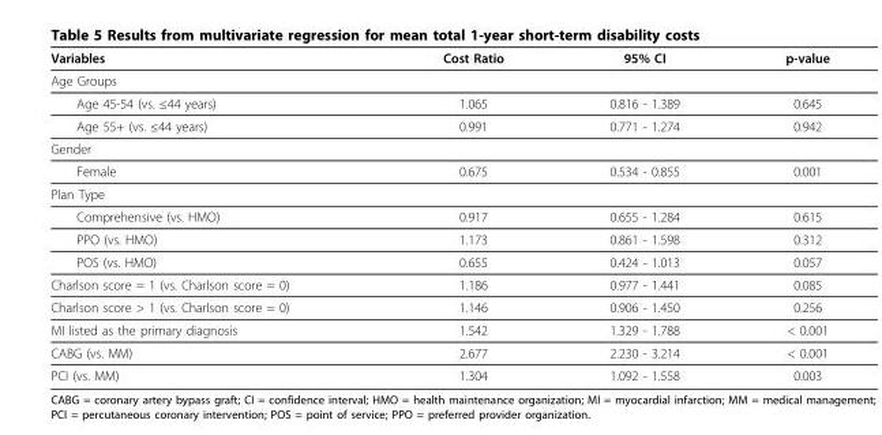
<table><thead><tr><td>Variables</td><td>Cost Ratio</td><td>95% CI</td><td>p-value</td></tr></thead><tbody><tr><td colspan="4">Age Groups</td></tr><tr><td>Age 45-54 (vs. ≤44 years)</td><td>1.065</td><td>0.816 - 1.389</td><td>0.645</td></tr><tr><td>Age 55+ (vs. ≤44 years)</td><td>0.991</td><td>0.771 - 1.274</td><td>0.942</td></tr><tr><td colspan="4">Gender</td></tr><tr><td>Female</td><td>0.675</td><td>0.534 - 0.855</td><td>0.001</td></tr><tr><td colspan="4">Plan Type</td></tr><tr><td>Comprehensive (vs. HMO)</td><td>0.917</td><td>0.655 - 1.284</td><td>0.615</td></tr><tr><td>PPO (vs. HMO)</td><td>1.173</td><td>0.861 - 1.598</td><td>0.312</td></tr><tr><td>POS (vs. HMO)</td><td>0.655</td><td>0.424 - 1.013</td><td>0.057</td></tr><tr><td>Charlson score = 1 (vs. Charlson score = 0)</td><td>1.186</td><td>0.977 - 1.441</td><td>0.085</td></tr><tr><td>Charlson score &gt; 1 (vs. Charlson score = 0)</td><td>1.146</td><td>0.906 - 1.450</td><td>0.256</td></tr><tr><td>MI listed as the primary diagnosis</td><td>1.542</td><td>1.329 - 1.788</td><td>&lt; 0.001</td></tr><tr><td>CABG (vs. MM)</td><td>2.677</td><td>2.230 - 3.214</td><td>&lt; 0.001</td></tr><tr><td>PCI (vs. MM)</td><td>1.304</td><td>1.092 - 1.558</td><td>0.003</td></tr></tbody></table>